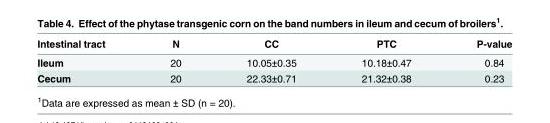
<table><thead><tr><td>Intestinal tract</td><td>N</td><td>CC</td><td>PTC</td><td>P-value</td></tr></thead><tbody><tr><td>Ileum</td><td>20</td><td>10.05±0.35</td><td>10.18±0.47</td><td>0.84</td></tr><tr><td>Cecum</td><td>20</td><td>22.33±0.71</td><td>21.32±0.38</td><td>0.23</td></tr></tbody></table>